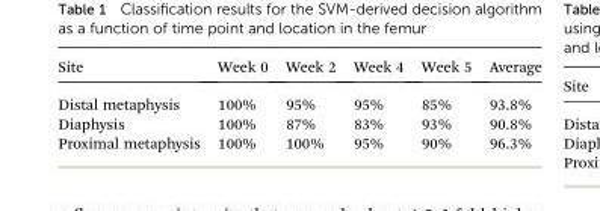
<table><thead><tr><td>Site</td><td>Week 0</td><td>Week 2</td><td>Week 4</td><td>Week 5</td><td>Average</td></tr></thead><tbody><tr><td>Distal metaphysis</td><td>100%</td><td>95%</td><td>95%</td><td>85%</td><td>93.8%</td></tr><tr><td>Diaphysis</td><td>100%</td><td>87%</td><td>83%</td><td>93%</td><td>90.8%</td></tr><tr><td>Proximal metaphysis</td><td>100%</td><td>100%</td><td>95%</td><td>90%</td><td>96.3%</td></tr></tbody></table>